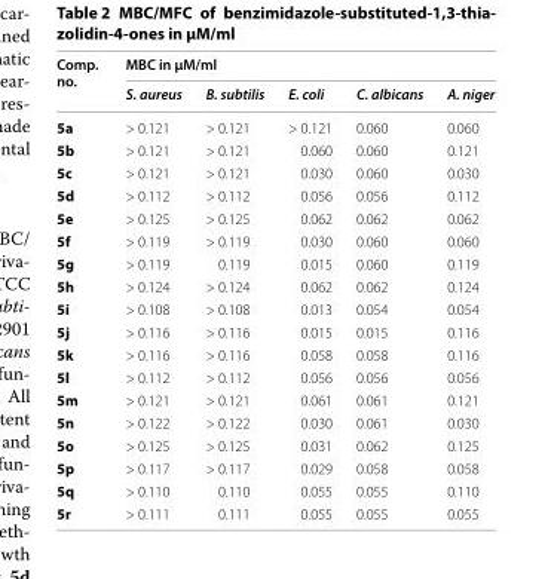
<table><thead><tr><td rowspan="2">Comp. no.</td><td colspan="5">MBC in µM/ml</td></tr><tr><td>S. aureus</td><td>B. subtilis</td><td>E. coli</td><td>C. albicans</td><td>A. niger</td></tr></thead><tbody><tr><td>5a</td><td>&gt; 0.121</td><td>&gt; 0.121</td><td>&gt; 0.121</td><td>0.060</td><td>0.060</td></tr><tr><td>5b</td><td>&gt; 0.121</td><td>&gt; 0.121</td><td>0.060</td><td>0.060</td><td>0.121</td></tr><tr><td>5c</td><td>&gt; 0.121</td><td>&gt; 0.121</td><td>0.030</td><td>0.060</td><td>0.030</td></tr><tr><td>5d</td><td>&gt; 0.112</td><td>&gt; 0.112</td><td>0.056</td><td>0.056</td><td>0.112</td></tr><tr><td>5e</td><td>&gt; 0.125</td><td>&gt; 0.125</td><td>0.062</td><td>0.062</td><td>0.062</td></tr><tr><td>5f</td><td>&gt; 0.119</td><td>&gt; 0.119</td><td>0.030</td><td>0.060</td><td>0.060</td></tr><tr><td>5g</td><td>&gt; 0.119</td><td>0.119</td><td>0.015</td><td>0.060</td><td>0.119</td></tr><tr><td>5h</td><td>&gt; 0.124</td><td>&gt; 0.124</td><td>0.062</td><td>0.062</td><td>0.124</td></tr><tr><td>5i</td><td>&gt; 0.108</td><td>&gt; 0.108</td><td>0.013</td><td>0.054</td><td>0.054</td></tr><tr><td>5j</td><td>&gt; 0.116</td><td>&gt; 0.116</td><td>0.015</td><td>0.015</td><td>0.116</td></tr><tr><td>5k</td><td>&gt; 0.116</td><td>&gt; 0.116</td><td>0.058</td><td>0.058</td><td>0.116</td></tr><tr><td>5l</td><td>&gt; 0.112</td><td>&gt; 0.112</td><td>0.056</td><td>0.056</td><td>0.056</td></tr><tr><td>5m</td><td>&gt; 0.121</td><td>&gt; 0.121</td><td>0.061</td><td>0.061</td><td>0.121</td></tr><tr><td>5n</td><td>&gt; 0.122</td><td>&gt; 0.122</td><td>0.030</td><td>0.061</td><td>0.030</td></tr><tr><td>5o</td><td>&gt; 0.125</td><td>&gt; 0.125</td><td>0.031</td><td>0.062</td><td>0.125</td></tr><tr><td>5p</td><td>&gt; 0.117</td><td>&gt; 0.117</td><td>0.029</td><td>0.058</td><td>0.058</td></tr><tr><td>5q</td><td>&gt; 0.110</td><td>0.110</td><td>0.055</td><td>0.055</td><td>0.110</td></tr><tr><td>5r</td><td>&gt; 0.111</td><td>0.111</td><td>0.055</td><td>0.055</td><td>0.055</td></tr></tbody></table>